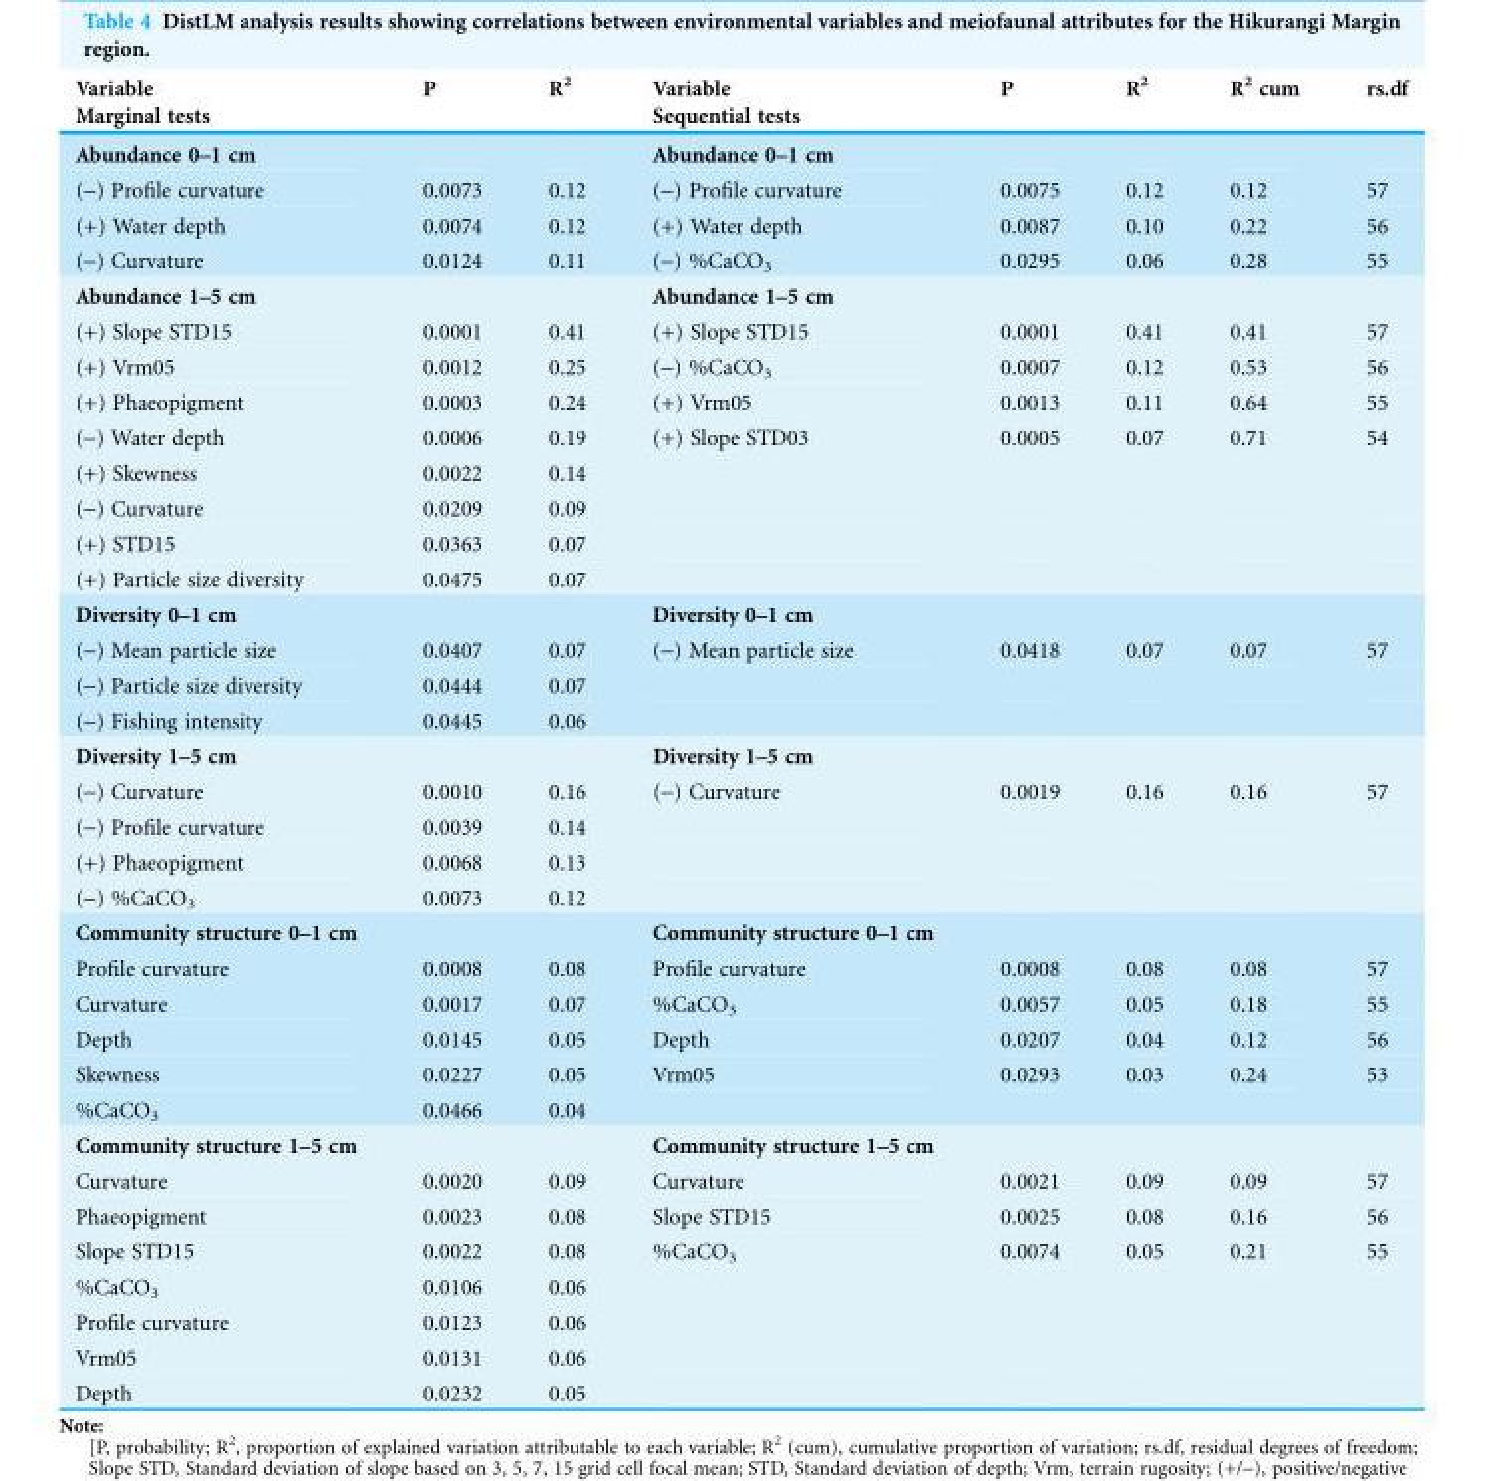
<table><thead><tr><td rowspan="2">Variable Marginal tests</td><td rowspan="2">P</td><td rowspan="2">R<sup>2</sup></td><td rowspan="2">Variable Sequential tests</td><td rowspan="2">P</td><td rowspan="2">R<sup>2</sup></td><td rowspan="2">R<sup>2</sup> cum</td><td rowspan="2">rs.df</td></tr><tr></tr></thead><tbody><tr><td colspan="3">Abundance 0–1 cm</td><td colspan="5">Abundance 0–1 cm</td></tr><tr><td>(-) Profile curvature</td><td>0.0073</td><td>0.12</td><td>(-) Profile curvature</td><td>0.0075</td><td>0.12</td><td>0.12</td><td>57</td></tr><tr><td>(+) Water depth</td><td>0.0074</td><td>0.12</td><td>(+) Water depth</td><td>0.0087</td><td>0.10</td><td>0.22</td><td>56</td></tr><tr><td>(-) Curvature</td><td>0.0124</td><td>0.11</td><td>(-) %CaCO<sub>3</sub></td><td>0.0295</td><td>0.06</td><td>0.28</td><td>55</td></tr><tr><td colspan="3">Abundance 1–5 cm</td><td colspan="5">Abundance 1–5 cm</td></tr><tr><td>(+) Slope STD15</td><td>0.0001</td><td>0.41</td><td>(+) Slope STD15</td><td>0.0001</td><td>0.41</td><td>0.41</td><td>57</td></tr><tr><td>(+) Vrm05</td><td>0.0012</td><td>0.25</td><td>(-) %CaCO<sub>3</sub></td><td>0.0007</td><td>0.12</td><td>0.53</td><td>56</td></tr><tr><td>(+) Phaeopigment</td><td>0.0003</td><td>0.24</td><td>(+) Vrm05</td><td>0.0013</td><td>0.11</td><td>0.64</td><td>55</td></tr><tr><td>(-) Water depth</td><td>0.0006</td><td>0.19</td><td>(+) Slope STD03</td><td>0.0005</td><td>0.07</td><td>0.71</td><td>54</td></tr><tr><td>(+) Skewness</td><td>0.0022</td><td>0.14</td><td></td><td></td><td></td><td></td><td></td></tr><tr><td>(-) Curvature</td><td>0.0209</td><td>0.09</td><td></td><td></td><td></td><td></td><td></td></tr><tr><td>(+) STD15</td><td>0.0363</td><td>0.07</td><td></td><td></td><td></td><td></td><td></td></tr><tr><td>(+) Particle size diversity</td><td>0.0475</td><td>0.07</td><td></td><td></td><td></td><td></td><td></td></tr><tr><td colspan="3">Diversity 0–1 cm</td><td colspan="5">Diversity 0–1 cm</td></tr><tr><td>(-) Mean particle size</td><td>0.0407</td><td>0.07</td><td>(-) Mean particle size</td><td>0.0418</td><td>0.07</td><td>0.07</td><td>57</td></tr><tr><td>(-) Particle size diversity</td><td>0.0444</td><td>0.07</td><td></td><td></td><td></td><td></td><td></td></tr><tr><td>(-) Fishing intensity</td><td>0.0445</td><td>0.06</td><td></td><td></td><td></td><td></td><td></td></tr><tr><td colspan="3">Diversity 1–5 cm</td><td colspan="5">Diversity 1–5 cm</td></tr><tr><td>(-) Curvature</td><td>0.0010</td><td>0.16</td><td>(-) Curvature</td><td>0.0019</td><td>0.16</td><td>0.16</td><td>57</td></tr><tr><td>(-) Profile curvature</td><td>0.0039</td><td>0.14</td><td></td><td></td><td></td><td></td><td></td></tr><tr><td>(+) Phaeopigment</td><td>0.0068</td><td>0.13</td><td></td><td></td><td></td><td></td><td></td></tr><tr><td>(-) %CaCO<sub>3</sub></td><td>0.0073</td><td>0.12</td><td></td><td></td><td></td><td></td><td></td></tr><tr><td colspan="3">Community structure 0–1 cm</td><td colspan="5">Community structure 0–1 cm</td></tr><tr><td>Profile curvature</td><td>0.0008</td><td>0.08</td><td>Profile curvature</td><td>0.0008</td><td>0.08</td><td>0.08</td><td>57</td></tr><tr><td>Curvature</td><td>0.0017</td><td>0.07</td><td>%CaCO<sub>3</sub></td><td>0.0057</td><td>0.05</td><td>0.18</td><td>55</td></tr><tr><td>Depth</td><td>0.0145</td><td>0.05</td><td>Depth</td><td>0.0207</td><td>0.04</td><td>0.12</td><td>56</td></tr><tr><td>Skewness</td><td>0.0227</td><td>0.05</td><td>Vrm05</td><td>0.0293</td><td>0.03</td><td>0.24</td><td>53</td></tr><tr><td>%CaCO<sub>3</sub></td><td>0.0466</td><td>0.04</td><td></td><td></td><td></td><td></td><td></td></tr><tr><td colspan="3">Community structure 1–5 cm</td><td colspan="5">Community structure 1–5 cm</td></tr><tr><td>Curvature</td><td>0.0020</td><td>0.09</td><td>Curvature</td><td>0.0021</td><td>0.09</td><td>0.09</td><td>57</td></tr><tr><td>Phaeopigment</td><td>0.0023</td><td>0.08</td><td>Slope STD15</td><td>0.0025</td><td>0.08</td><td>0.16</td><td>56</td></tr><tr><td>Slope STD15</td><td>0.0022</td><td>0.08</td><td>%CaCO<sub>3</sub></td><td>0.0074</td><td>0.05</td><td>0.21</td><td>55</td></tr><tr><td>%CaCO<sub>3</sub></td><td>0.0106</td><td>0.06</td><td></td><td></td><td></td><td></td><td></td></tr><tr><td>Profile curvature</td><td>0.0123</td><td>0.06</td><td></td><td></td><td></td><td></td><td></td></tr><tr><td>Vrm05</td><td>0.0131</td><td>0.06</td><td></td><td></td><td></td><td></td><td></td></tr><tr><td>Depth</td><td>0.0232</td><td>0.05</td><td></td><td></td><td></td><td></td><td></td></tr></tbody></table>